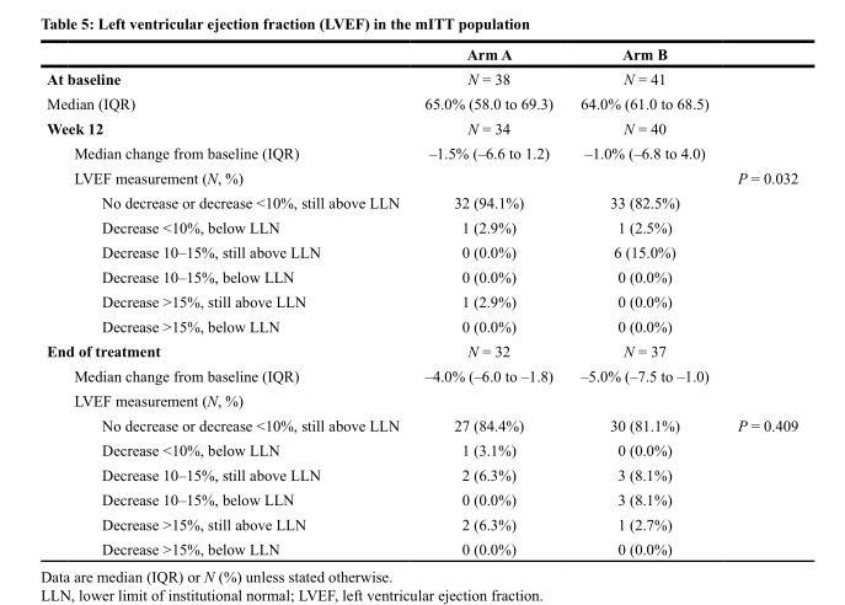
<table><thead><tr><td></td><td>Arm A</td><td>Arm B</td><td></td></tr></thead><tbody><tr><td>At baseline</td><td>N = 38</td><td>N = 41</td><td></td></tr><tr><td>Median (IQR)</td><td>65.0% (58.0 to 69.3)</td><td>64.0% (61.0 to 68.5)</td><td></td></tr><tr><td>Week 12</td><td>N = 34</td><td>N = 40</td><td></td></tr><tr><td>Median change from baseline (IQR)</td><td>–1.5% (–6.6 to 1.2)</td><td>–1.0% (–6.8 to 4.0)</td><td></td></tr><tr><td>LVEF measurement (N, %)</td><td></td><td></td><td>P = 0.032</td></tr><tr><td>No decrease or decrease &lt;10%, still above LLN</td><td>32 (94.1%)</td><td>33 (82.5%)</td><td></td></tr><tr><td>Decrease &lt;10%, below LLN</td><td>1 (2.9%)</td><td>1 (2.5%)</td><td></td></tr><tr><td>Decrease 10–15%, still above LLN</td><td>0 (0.0%)</td><td>6 (15.0%)</td><td></td></tr><tr><td>Decrease 10–15%, below LLN</td><td>0 (0.0%)</td><td>0 (0.0%)</td><td></td></tr><tr><td>Decrease &gt;15%, still above LLN</td><td>1 (2.9%)</td><td>0 (0.0%)</td><td></td></tr><tr><td>Decrease &gt;15%, below LLN</td><td>0 (0.0%)</td><td>0 (0.0%)</td><td></td></tr><tr><td>End of treatment</td><td>N = 32</td><td>N = 37</td><td></td></tr><tr><td>Median change from baseline (IQR)</td><td>–4.0% (–6.0 to –1.8)</td><td>–5.0% (–7.5 to –1.0)</td><td></td></tr><tr><td colspan="4">LVEF measurement (N, %)</td></tr><tr><td>No decrease or decrease &lt;10%, still above LLN</td><td>27 (84.4%)</td><td>30 (81.1%)</td><td>P = 0.409</td></tr><tr><td>Decrease &lt;10%, below LLN</td><td>1 (3.1%)</td><td>0 (0.0%)</td><td></td></tr><tr><td>Decrease 10–15%, still above LLN</td><td>2 (6.3%)</td><td>3 (8.1%)</td><td></td></tr><tr><td>Decrease 10–15%, below LLN</td><td>0 (0.0%)</td><td>3 (8.1%)</td><td></td></tr><tr><td>Decrease &gt;15%, still above LLN</td><td>2 (6.3%)</td><td>1 (2.7%)</td><td></td></tr><tr><td>Decrease &gt;15%, below LLN</td><td>0 (0.0%)</td><td>0 (0.0%)</td><td></td></tr></tbody></table>